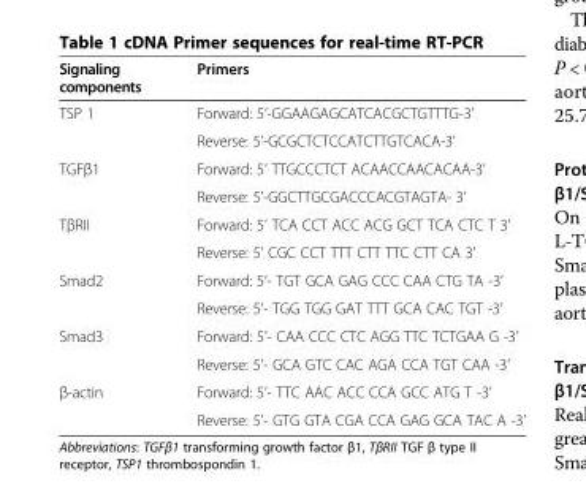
<table><thead><tr><td>Signaling components</td><td>Primers</td></tr></thead><tbody><tr><td rowspan="2">TSP 1</td><td>Forward: 5’-GGAAGAGCATCACGCTGTTTG-3’</td></tr><tr><td>Reverse: 5’-GCGCTCTCCATCTTGTCACA-3’</td></tr><tr><td rowspan="2">TGFβ1</td><td>Forward: 5’ TTGCCCTCT ACAACCAACACAA-3’</td></tr><tr><td>Reverse: 5’-GGCTTGCGACCCACGTAGTA- 3’</td></tr><tr><td rowspan="2">TβRII</td><td>Forward: 5’ TCA CCT ACC ACG GCT TCA CTC T 3’</td></tr><tr><td>Reverse: 5’ CGC CCT TTT CTT TTC CTT CA 3’</td></tr><tr><td rowspan="2">Smad2</td><td>Forward: 5’- TGT GCA GAG CCC CAA CTG TA -3’</td></tr><tr><td>Reverse: 5’- TGG TGG GAT TTT GCA CAC TGT -3’</td></tr><tr><td rowspan="2">Smad3</td><td>Forward: 5’- CAA CCC CTC AGG TTC TCTGAA G -3’</td></tr><tr><td>Reverse: 5’- GCA GTC CAC AGA CCA TGT CAA -3’</td></tr><tr><td rowspan="2">β-actin</td><td>Forward: 5’- TTC AAC ACC CCA GCC ATG T -3’</td></tr><tr><td>Reverse: 5’- GTG GTA CGA CCA GAG GCA TAC A -3’</td></tr></tbody></table>